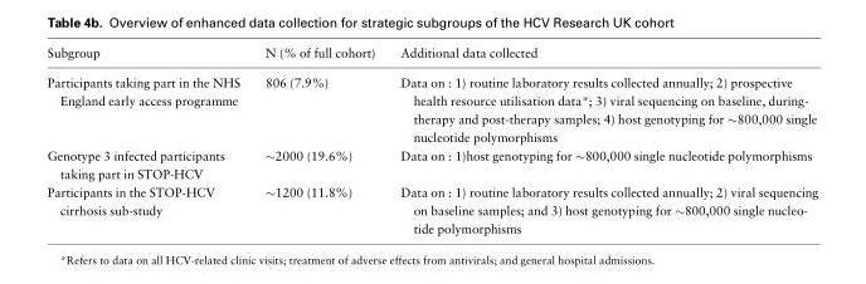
<table><thead><tr><td>Subgroup</td><td>N (% of full cohort)</td><td>Additional data collected</td></tr></thead><tbody><tr><td>Participants taking part in the NHS England early access programme</td><td>806 (7.9%)</td><td>Data on : 1) routine laboratory results collected annually; 2) prospective health resource utilisation data*; 3) viral sequencing on baseline, during- therapy and post-therapy samples; 4) host genotyping for ∼800,000 single nucleotide polymorphisms</td></tr><tr><td>Genotype 3 infected participants taking part in STOP-HCV</td><td>∼2000 (19.6%)</td><td>Data on : 1)host genotyping for ∼800,000 single nucleotide polymorphisms</td></tr><tr><td>Participants in the STOP-HCV cirrhosis sub-study</td><td>∼1200 (11.8%)</td><td>Data on : 1) routine laboratory results collected annually; 2) viral sequencing on baseline samples; and 3) host genotyping for �800,000 single nucleo- tide polymorphisms</td></tr></tbody></table>